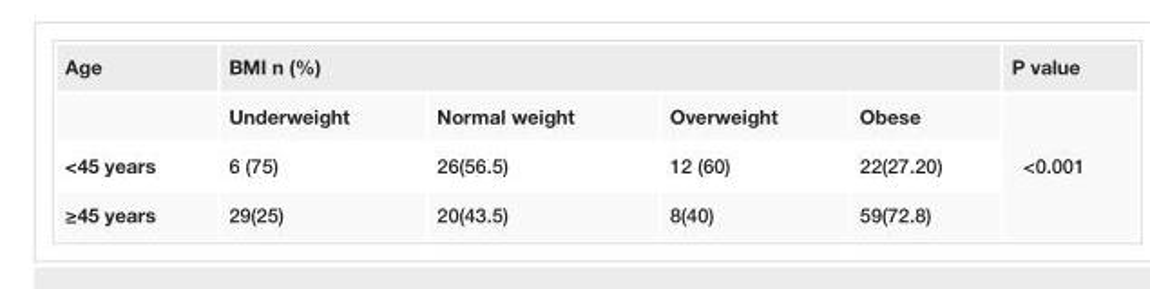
<table><tbody><tr><td rowspan="2">Age</td><td colspan="4">BMI n (%)</td><td>P value</td></tr><tr><td>Underweight</td><td>Normal weight</td><td>Overweight</td><td>Obese</td><td rowspan="3">&lt;0.001</td></tr><tr><td>&lt;45 years</td><td>6 (75)</td><td>26(56.5)</td><td>12 (60)</td><td>22(27.20)</td></tr><tr><td>≥45 years</td><td>29(25)</td><td>20(43.5)</td><td>8(40)</td><td>59(72.8)</td></tr></tbody></table>